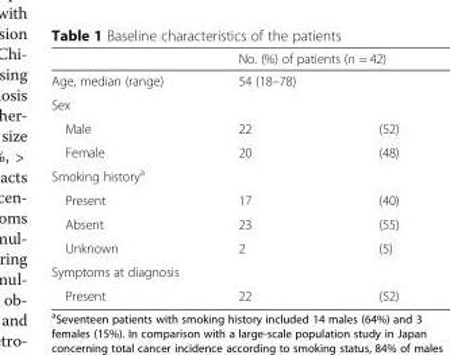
<table><thead><tr><td rowspan="2">Age, median (range)</td><td rowspan="2" colspan="2">No. (%) of patients (n = 42) 54 (18–78)</td></tr><tr></tr><tr><td colspan="3">Sex</td></tr><tr><td>Male</td><td>22</td><td>(52)</td></tr></thead><tbody><tr><td>Female</td><td>20</td><td>(48)</td></tr><tr><td colspan="3">Smoking history<sup>a</sup></td></tr><tr><td>Present</td><td>17</td><td>(40)</td></tr><tr><td>Absent</td><td>23</td><td>(55)</td></tr><tr><td>Unknown</td><td>2</td><td>(5)</td></tr><tr><td colspan="3">Symptoms at diagnosis</td></tr><tr><td>Present</td><td>22</td><td>(52)</td></tr></tbody></table>